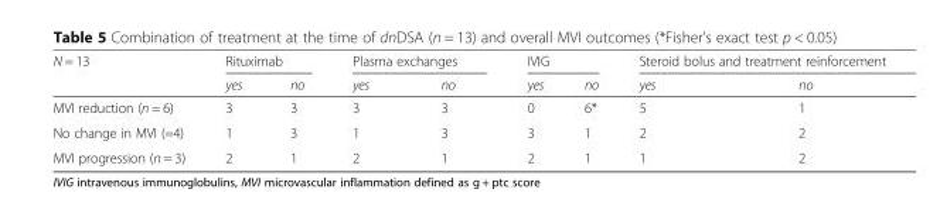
<table><thead><tr><td rowspan="2">N = 13</td><td colspan="2">Rituximab</td><td colspan="2">Plasma exchanges</td><td colspan="2">IVIG</td><td colspan="2">Steroid bolus and treatment reinforcement</td></tr><tr><td>yes</td><td>no</td><td>yes</td><td>no</td><td>yes</td><td>no</td><td>yes</td><td>no</td></tr></thead><tbody><tr><td>MVI reduction (n = 6)</td><td>3</td><td>3</td><td>3</td><td>3</td><td>0</td><td>6*</td><td>5</td><td>1</td></tr><tr><td>No change in MVI (=4)</td><td>1</td><td>3</td><td>1</td><td>3</td><td>3</td><td>1</td><td>2</td><td>2</td></tr><tr><td>MVI progression (n = 3)</td><td>2</td><td>1</td><td>2</td><td>1</td><td>2</td><td>1</td><td>1</td><td>2</td></tr></tbody></table>